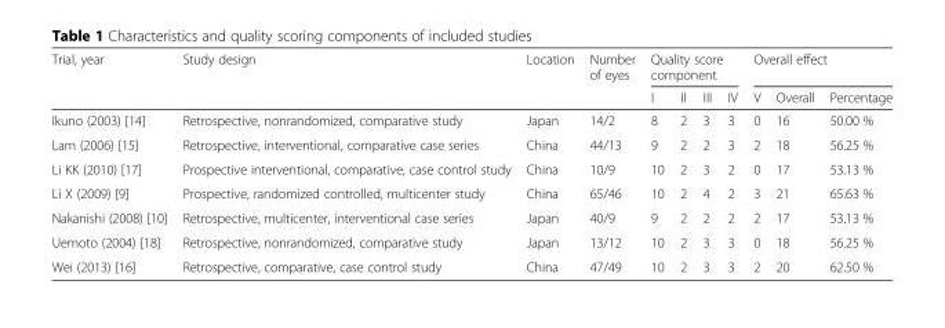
<table><thead><tr><td rowspan="2">Trial, year</td><td rowspan="2">Study design</td><td rowspan="2">Location</td><td rowspan="2">Number of eyes</td><td colspan="4">Quality score component</td><td colspan="3">Overall effect</td></tr><tr><td>I</td><td>II</td><td>III</td><td>IV</td><td>V</td><td>Overall</td><td>Percentage</td></tr></thead><tbody><tr><td>Ikuno (2003) [14]</td><td>Retrospective, nonrandomized, comparative study</td><td>Japan</td><td>14/2</td><td>8</td><td>2</td><td>3</td><td>3</td><td>0</td><td>16</td><td>50.00 %</td></tr><tr><td>Lam (2006) [15]</td><td>Retrospective, interventional, comparative case series</td><td>China</td><td>44/13</td><td>9</td><td>2</td><td>2</td><td>3</td><td>2</td><td>18</td><td>56.25 %</td></tr><tr><td>Li KK (2010) [17]</td><td>Prospective interventional, comparative, case control study</td><td>China</td><td>10/9</td><td>10</td><td>2</td><td>3</td><td>2</td><td>0</td><td>17</td><td>53.13 %</td></tr><tr><td>Li X (2009) [9]</td><td>Prospective, randomized controlled, multicenter study</td><td>China</td><td>65/46</td><td>10</td><td>2</td><td>4</td><td>2</td><td>3</td><td>21</td><td>65.63 %</td></tr><tr><td>Nakanishi (2008) [10]</td><td>Retrospective, multicenter, interventional case series</td><td>Japan</td><td>40/9</td><td>9</td><td>2</td><td>2</td><td>2</td><td>2</td><td>17</td><td>53.13 %</td></tr><tr><td>Uemoto (2004) [18]</td><td>Retrospective, nonrandomized, comparative study</td><td>Japan</td><td>13/12</td><td>10</td><td>2</td><td>3</td><td>3</td><td>0</td><td>18</td><td>56.25 %</td></tr><tr><td>Wei (2013) [16]</td><td>Retrospective, comparative, case control study</td><td>China</td><td>47/49</td><td>10</td><td>2</td><td>3</td><td>3</td><td>2</td><td>20</td><td>62.50 %</td></tr></tbody></table>